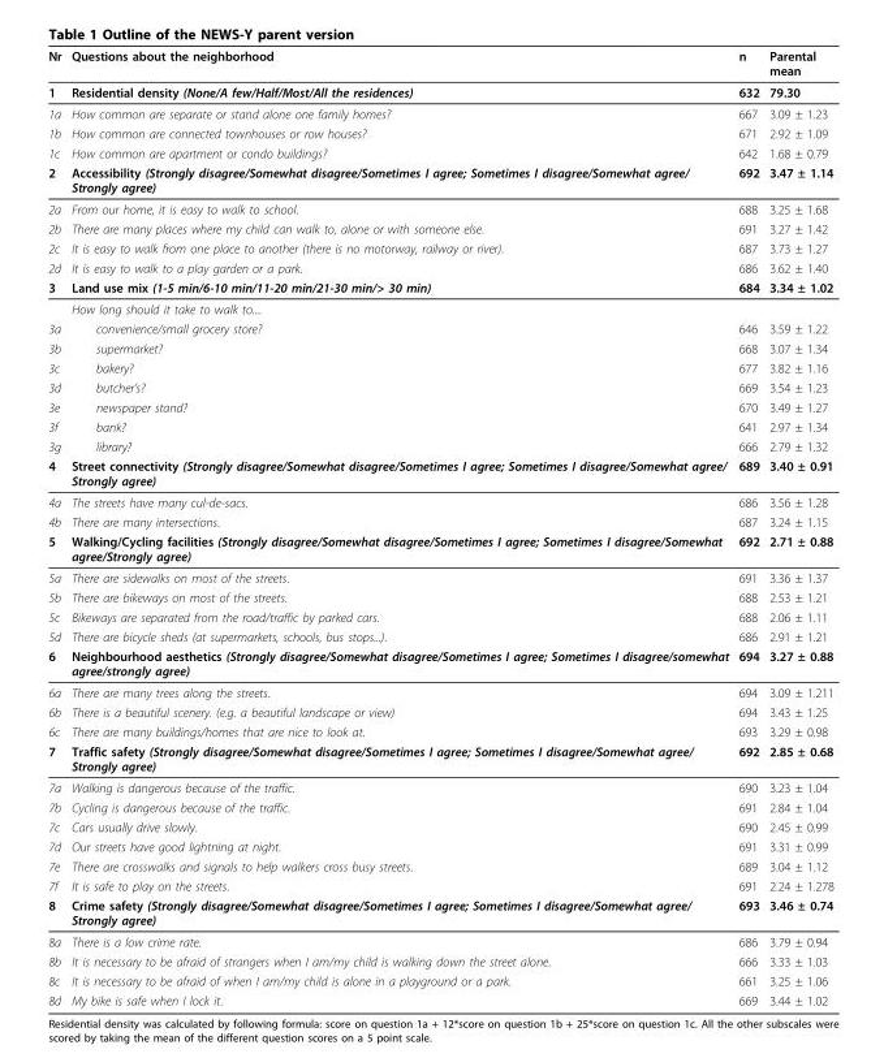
<table><thead><tr><td>Nr</td><td>Questions about the neighborhood</td><td>n</td><td>Parental mean</td></tr></thead><tbody><tr><td>1</td><td>Residential density (None/A few/Half/Most/All the residences)</td><td>632</td><td>79.30</td></tr><tr><td>1a</td><td>How common are separate or stand alone one family homes?</td><td>667</td><td>3.09 ± 1.23</td></tr><tr><td>1b</td><td>How common are connected townhouses or row houses?</td><td>671</td><td>2.92 ± 1.09</td></tr><tr><td>1c</td><td>How common are apartment or condo buildings?</td><td>642</td><td>1.68 ± 0.79</td></tr><tr><td>2</td><td>Accessibility (Strongly disagree/Somewhat disagree/Sometimes I agree; Sometimes I disagree/Somewhat agree/ Strongly agree)</td><td>692</td><td>3.47 ± 1.14</td></tr><tr><td>2a</td><td>From our home, it is easy to walk to school.</td><td>688</td><td>3.25 ± 1.68</td></tr><tr><td>2b</td><td>There are many places where my child can walk to, alone or with someone else.</td><td>691</td><td>3.27 ± 1.42</td></tr><tr><td>2c</td><td>It is easy to walk from one place to another (there is no motorway, railway or river).</td><td>687</td><td>3.73 ± 1.27</td></tr><tr><td>2d</td><td>It is easy to walk to a play garden or a park.</td><td>686</td><td>3.62 ± 1.40</td></tr><tr><td rowspan="2">3</td><td>Land use mix (1-5 min/6-10 min/11-20 min/21-30 min/&gt; 30 min)</td><td>684</td><td>3.34 ± 1.02</td></tr><tr><td>How long should it take to walk to....</td><td></td><td></td></tr><tr><td>3a</td><td>convenience/small grocery store?</td><td>646</td><td>3.59 ± 1.22</td></tr><tr><td>3b</td><td>supermarket?</td><td>668</td><td>3.07 ± 1.34</td></tr><tr><td>3c</td><td>bakery?</td><td>677</td><td>3.82 ± 1.16</td></tr><tr><td>3d</td><td>butcher’s?</td><td>669</td><td>3.54 ± 1.23</td></tr><tr><td>3e</td><td>newspaper stand?</td><td>670</td><td>3.49 ± 1.27</td></tr><tr><td>3f</td><td>bank?</td><td>641</td><td>2.97 ± 1.34</td></tr><tr><td>3g</td><td>library?</td><td>666</td><td>2.79 ± 1.32</td></tr><tr><td>4</td><td>Street connectivity (Strongly disagree/Somewhat disagree/Sometimes I agree; Sometimes I disagree/Somewhat agree/ Strongly agree)</td><td>689</td><td>3.40 ± 0.91</td></tr><tr><td>4a</td><td>The streets have many cul-de-sacs.</td><td>686</td><td>3.56 ± 1.28</td></tr><tr><td>4b</td><td>There are many intersections.</td><td>687</td><td>3.24 ± 1.15</td></tr><tr><td>5</td><td>Walking/Cycling facilities (Strongly disagree/Somewhat disagree/Sometimes I agree; Sometimes I disagree/Somewhat agree/Strongly agree)</td><td>692</td><td>2.71 ± 0.88</td></tr><tr><td>5a</td><td>There are sidewalks on most of the streets.</td><td>691</td><td>3.36 ± 1.37</td></tr><tr><td>5b</td><td>There are bikeways on most of the streets.</td><td>688</td><td>2.53 ± 1.21</td></tr><tr><td>5c</td><td>Bikeways are separated from the road/traffic by parked cars.</td><td>688</td><td>2.06 ± 1.11</td></tr><tr><td>5d</td><td>There are bicycle sheds (at supermarkets, schools, bus stops...).</td><td>686</td><td>2.91 ± 1.21</td></tr><tr><td>6</td><td>Neighbourhood aesthetics (Strongly disagree/Somewhat disagree/Sometimes I agree; Sometimes I disagree/somewhat agree/strongly agree)</td><td>694</td><td>3.27 ± 0.88</td></tr><tr><td>6a</td><td>There are many trees along the streets.</td><td>694</td><td>3.09 ± 1.211</td></tr><tr><td>6b</td><td>There is a beautiful scenery. (e.g. a beautiful landscape or view)</td><td>694</td><td>3.43 ± 1.25</td></tr><tr><td>6c</td><td>There are many buildings/homes that are nice to look at.</td><td>693</td><td>3.29 ± 0.98</td></tr><tr><td>7</td><td>Traffic safety (Strongly disagree/Somewhat disagree/Sometimes I agree; Sometimes I disagree/Somewhat agree/ Strongly agree)</td><td>692</td><td>2.85 ± 0.68</td></tr><tr><td>7a</td><td>Walking is dangerous because of the traffic.</td><td>690</td><td>3.23 ± 1.04</td></tr><tr><td>7b</td><td>Cycling is dangerous because of the traffic.</td><td>691</td><td>2.84 ± 1.04</td></tr><tr><td>7c</td><td>Cars usually drive slowly.</td><td>690</td><td>2.45 ± 0.99</td></tr><tr><td>7d</td><td>Our streets have good lightning at night.</td><td>691</td><td>3.31 ± 0.99</td></tr><tr><td>7e</td><td>There are crosswalks and signals to help walkers cross busy streets.</td><td>689</td><td>3.04 ± 1.12</td></tr><tr><td>7f</td><td>It is safe to play on the streets.</td><td>691</td><td>2.24 ± 1.278</td></tr><tr><td>8</td><td>Crime safety (Strongly disagree/Somewhat disagree/Sometimes I agree; Sometimes I disagree/Somewhat agree/ Strongly agree)</td><td>693</td><td>3.46 ± 0.74</td></tr><tr><td>8a</td><td>There is a low crime rate.</td><td>686</td><td>3.79 ± 0.94</td></tr><tr><td>8b</td><td>It is necessary to be afraid of strangers when I am/my child is walking down the street alone.</td><td>666</td><td>3.33 ± 1.03</td></tr><tr><td>8c</td><td>It is necessary to be afraid of when I am/my child is alone in a playground or a park.</td><td>661</td><td>3.25 ± 1.06</td></tr><tr><td>8d</td><td>My bike is safe when I lock it.</td><td>669</td><td>3.44 ± 1.02</td></tr></tbody></table>